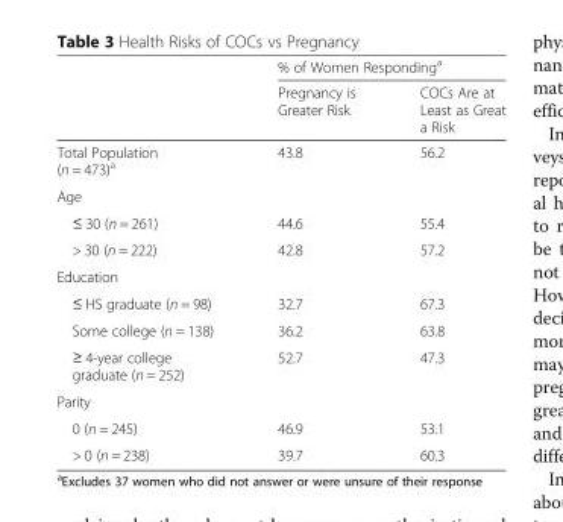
<table><thead><tr><td rowspan="2"></td><td colspan="2">% of Women Responding<sup>a</sup></td></tr><tr><td>Pregnancy is Greater Risk</td><td>COCs Are at Least as Great a Risk</td></tr></thead><tbody><tr><td>Total Population (n = 473)<sup>a</sup></td><td>43.8</td><td>56.2</td></tr><tr><td colspan="3">Age</td></tr><tr><td>≤ 30 (n = 261)</td><td>44.6</td><td>55.4</td></tr><tr><td>&gt; 30 (n = 222)</td><td>42.8</td><td>57.2</td></tr><tr><td colspan="3">Education</td></tr><tr><td>≤ HS graduate (n = 98)</td><td>32.7</td><td>67.3</td></tr><tr><td>Some college (n = 138)</td><td>36.2</td><td>63.8</td></tr><tr><td>≥ 4-year college graduate (n = 252)</td><td>52.7</td><td>47.3</td></tr><tr><td colspan="3">Parity</td></tr><tr><td>0 (n = 245)</td><td>46.9</td><td>53.1</td></tr><tr><td>&gt; 0 (n = 238)</td><td>39.7</td><td>60.3</td></tr></tbody></table>